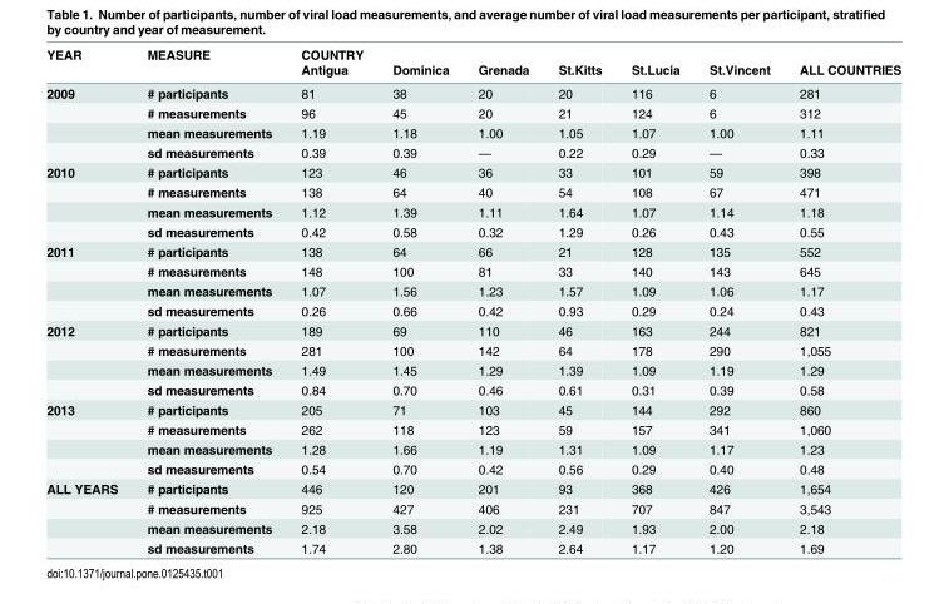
<table><thead><tr><td rowspan="2">YEAR</td><td rowspan="2">MEASURE</td><td rowspan="2">COUNTRY Antigua</td><td rowspan="2">Dominica</td><td rowspan="2">Grenada</td><td rowspan="2">St.Kitts</td><td rowspan="2">St.Lucia</td><td rowspan="2">St.Vincent</td><td rowspan="2">ALL COUNTRIES</td></tr><tr></tr></thead><tbody><tr><td rowspan="4">2009</td><td># participants</td><td>81</td><td>38</td><td>20</td><td>20</td><td>116</td><td>6</td><td>281</td></tr><tr><td># measurements</td><td>96</td><td>45</td><td>20</td><td>21</td><td>124</td><td>6</td><td>312</td></tr><tr><td>mean measurements</td><td>1.19</td><td>1.18</td><td>1.00</td><td>1.05</td><td>1.07</td><td>1.00</td><td>1.11</td></tr><tr><td>sd measurements</td><td>0.39</td><td>0.39</td><td>—</td><td>0.22</td><td>0.29</td><td>—</td><td>0.33</td></tr><tr><td rowspan="4">2010</td><td># participants</td><td>123</td><td>46</td><td>36</td><td>33</td><td>101</td><td>59</td><td>398</td></tr><tr><td># measurements</td><td>138</td><td>64</td><td>40</td><td>54</td><td>108</td><td>67</td><td>471</td></tr><tr><td>mean measurements</td><td>1.12</td><td>1.39</td><td>1.11</td><td>1.64</td><td>1.07</td><td>1.14</td><td>1.18</td></tr><tr><td>sd measurements</td><td>0.42</td><td>0.58</td><td>0.32</td><td>1.29</td><td>0.26</td><td>0.43</td><td>0.55</td></tr><tr><td rowspan="4">2011</td><td># participants</td><td>138</td><td>64</td><td>66</td><td>21</td><td>128</td><td>135</td><td>552</td></tr><tr><td># measurements</td><td>148</td><td>100</td><td>81</td><td>33</td><td>140</td><td>143</td><td>645</td></tr><tr><td>mean measurements</td><td>1.07</td><td>1.56</td><td>1.23</td><td>1.57</td><td>1.09</td><td>1.06</td><td>1.17</td></tr><tr><td>sd measurements</td><td>0.26</td><td>0.66</td><td>0.42</td><td>0.93</td><td>0.29</td><td>0.24</td><td>0.43</td></tr><tr><td rowspan="4">2012</td><td># participants</td><td>189</td><td>69</td><td>110</td><td>46</td><td>163</td><td>244</td><td>821</td></tr><tr><td># measurements</td><td>281</td><td>100</td><td>142</td><td>64</td><td>178</td><td>290</td><td>1,055</td></tr><tr><td>mean measurements</td><td>1.49</td><td>1.45</td><td>1.29</td><td>1.39</td><td>1.09</td><td>1.19</td><td>1.29</td></tr><tr><td>sd measurements</td><td>0.84</td><td>0.70</td><td>0.46</td><td>0.61</td><td>0.31</td><td>0.39</td><td>0.58</td></tr><tr><td rowspan="4">2013</td><td># participants</td><td>205</td><td>71</td><td>103</td><td>45</td><td>144</td><td>292</td><td>860</td></tr><tr><td># measurements</td><td>262</td><td>118</td><td>123</td><td>59</td><td>157</td><td>341</td><td>1,060</td></tr><tr><td>mean measurements</td><td>1.28</td><td>1.66</td><td>1.19</td><td>1.31</td><td>1.09</td><td>1.17</td><td>1.23</td></tr><tr><td>sd measurements</td><td>0.54</td><td>0.70</td><td>0.42</td><td>0.56</td><td>0.29</td><td>0.40</td><td>0.48</td></tr><tr><td rowspan="4">ALL YEARS</td><td># participants</td><td>446</td><td>120</td><td>201</td><td>93</td><td>368</td><td>426</td><td>1,654</td></tr><tr><td># measurements</td><td>925</td><td>427</td><td>406</td><td>231</td><td>707</td><td>847</td><td>3,543</td></tr><tr><td>mean measurements</td><td>2.18</td><td>3.58</td><td>2.02</td><td>2.49</td><td>1.93</td><td>2.00</td><td>2.18</td></tr><tr><td>sd measurements</td><td>1.74</td><td>2.80</td><td>1.38</td><td>2.64</td><td>1.17</td><td>1.20</td><td>1.69</td></tr></tbody></table>